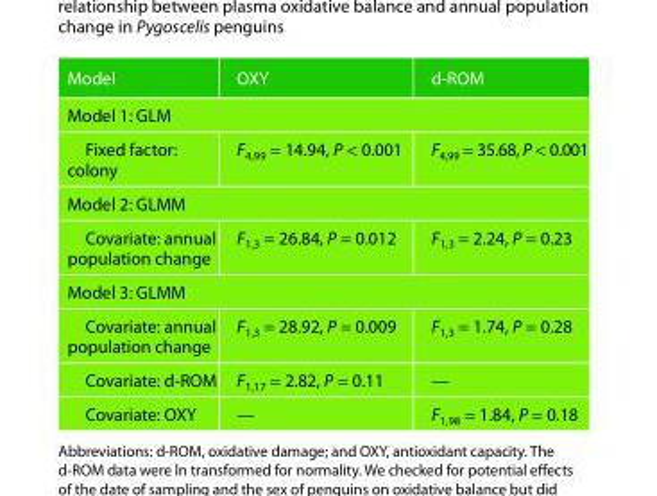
<table><thead><tr><td>Model</td><td>OXY</td><td>d-ROM</td></tr></thead><tbody><tr><td colspan="3">Model 1: GLM</td></tr><tr><td>Fixed factor: colony</td><td>F<sub>4,99</sub> = 14.94, P &lt; 0.001</td><td>F<sub>4,99</sub> = 35.68, P &lt; 0.001</td></tr><tr><td colspan="3">Model 2: GLMM</td></tr><tr><td>Covariate: annual population change</td><td>F<sub>1,3</sub> = 26.84, P = 0.012</td><td>F<sub>1,3</sub> = 2.24, P = 0.23</td></tr><tr><td colspan="3">Model 3: GLMM</td></tr><tr><td>Covariate: annual population change</td><td>F<sub>1,3</sub> = 28.92, P = 0.009</td><td>F<sub>1,3</sub> = 1.74, P = 0.28</td></tr><tr><td>Covariate: d-ROM</td><td>F<sub>1,17</sub> = 2.82, P = 0.11</td><td>—</td></tr><tr><td>Covariate: OXY</td><td>—</td><td>F<sub>1,98</sub> = 1.84, P = 0.18</td></tr></tbody></table>